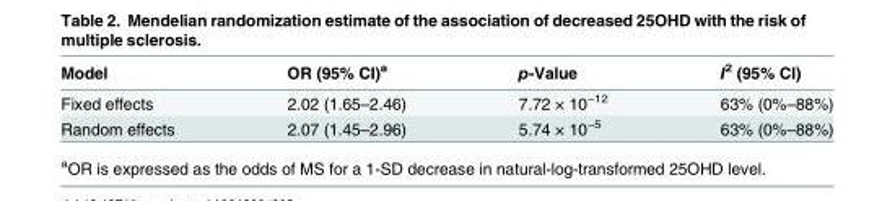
<table><thead><tr><td>Model</td><td>OR (95% CI)<sup>a</sup></td><td>p-Value</td><td>I<sup>2</sup> (95% CI)</td></tr></thead><tbody><tr><td>Fixed effects</td><td>2.02 (1.65–2.46)</td><td>7.72 × 10<sup>−12</sup></td><td>63% (0%–88%)</td></tr><tr><td>Random effects</td><td>2.07 (1.45–2.96)</td><td>5.74 × 10<sup>−5</sup></td><td>63% (0%–88%)</td></tr></tbody></table>